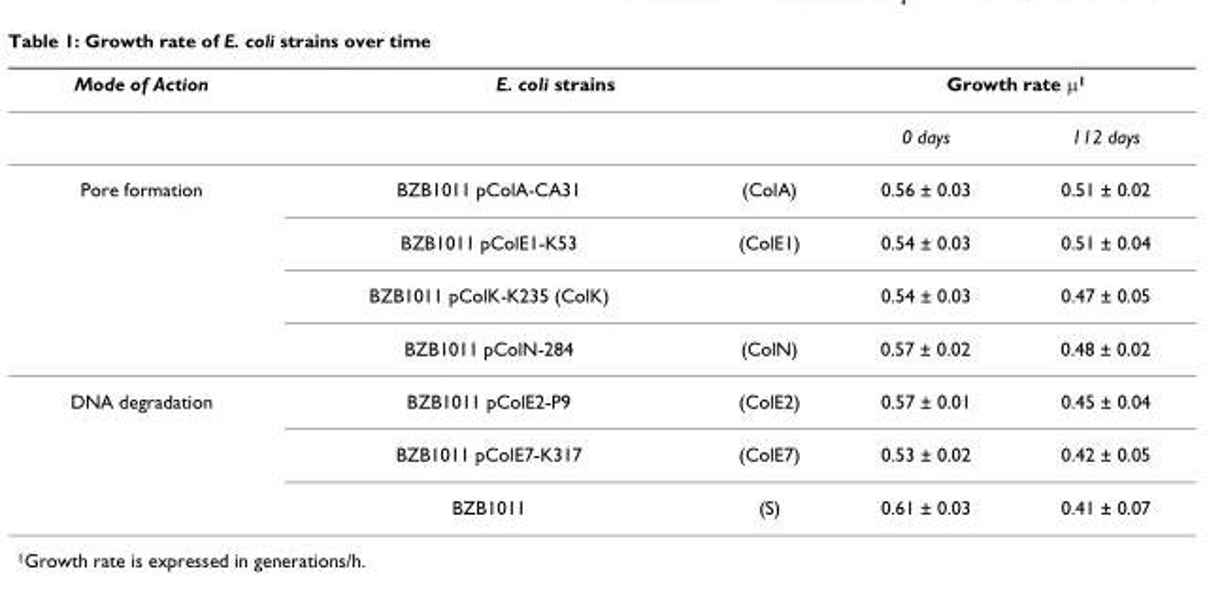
<table><thead><tr><td rowspan="2">Mode of Action</td><td colspan="2">E. coli strains</td><td colspan="2">Growth rate μ<sup>1</sup></td></tr><tr><td></td><td></td><td>0 days</td><td>112 days</td></tr></thead><tbody><tr><td rowspan="4">Pore formation</td><td>BZB1011 pColA-CA31</td><td>(ColA)</td><td>0.56 ± 0.03</td><td>0.51 ± 0.02</td></tr><tr><td>BZB1011 pColE1-K53</td><td>(ColE1)</td><td>0.54 ± 0.03</td><td>0.51 ± 0.04</td></tr><tr><td>BZB1011 pColK-K235 (ColK)</td><td></td><td>0.54 ± 0.03</td><td>0.47 ± 0.05</td></tr><tr><td>BZB1011 pColN-284</td><td>(ColN)</td><td>0.57 ± 0.02</td><td>0.48 ± 0.02</td></tr><tr><td rowspan="3">DNA degradation</td><td>BZB1011 pColE2-P9</td><td>(ColE2)</td><td>0.57 ± 0.01</td><td>0.45 ± 0.04</td></tr><tr><td>BZB1011 pColE7-K317</td><td>(ColE7)</td><td>0.53 ± 0.02</td><td>0.42 ± 0.05</td></tr><tr><td>BZB1011</td><td>(S)</td><td>0.61 ± 0.03</td><td>0.41 ± 0.07</td></tr></tbody></table>